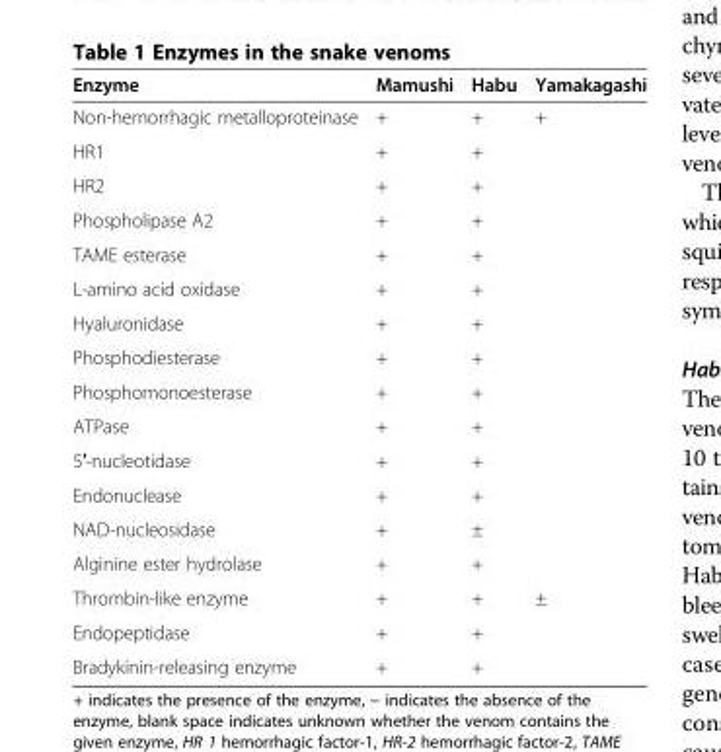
<table><thead><tr><td>Enzyme</td><td>Mamushi</td><td>Habu</td><td>Yamakagashi</td></tr></thead><tbody><tr><td>Non-hemorrhagic metalloproteinase</td><td>+</td><td>+</td><td>+</td></tr><tr><td>HR1</td><td>+</td><td>+</td><td></td></tr><tr><td>HR2</td><td>+</td><td>+</td><td></td></tr><tr><td>Phospholipase A2</td><td>+</td><td>+</td><td></td></tr><tr><td>TAME esterase</td><td>+</td><td>+</td><td></td></tr><tr><td>L-amino acid oxidase</td><td>+</td><td>+</td><td></td></tr><tr><td>Hyaluronidase</td><td>+</td><td>+</td><td></td></tr><tr><td>Phosphodiesterase</td><td>+</td><td>+</td><td></td></tr><tr><td>Phosphomonoesterase</td><td>+</td><td>+</td><td></td></tr><tr><td>ATPase</td><td>+</td><td>+</td><td></td></tr><tr><td>5′-nucleotidase</td><td>+</td><td>+</td><td></td></tr><tr><td>Endonuclease</td><td>+</td><td>+</td><td></td></tr><tr><td>NAD-nucleosidase</td><td>+</td><td>±</td><td></td></tr><tr><td>Alginine ester hydrolase</td><td>+</td><td>+</td><td></td></tr><tr><td>Thrombin-like enzyme</td><td>+</td><td>+</td><td>±</td></tr><tr><td>Endopeptidase</td><td>+</td><td>+</td><td></td></tr><tr><td>Bradykinin-releasing enzyme</td><td>+</td><td>+</td><td></td></tr></tbody></table>